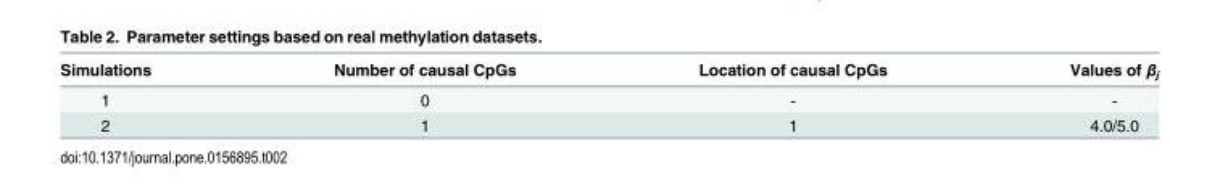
<table><thead><tr><td>Simulations</td><td>Number of causal CpGs</td><td>Location of causal CpGs</td><td>Values of β<sub>j</sub></td></tr></thead><tbody><tr><td>1</td><td>0</td><td>-</td><td>-</td></tr><tr><td>2</td><td>1</td><td>1</td><td>4.0/5.0</td></tr></tbody></table>